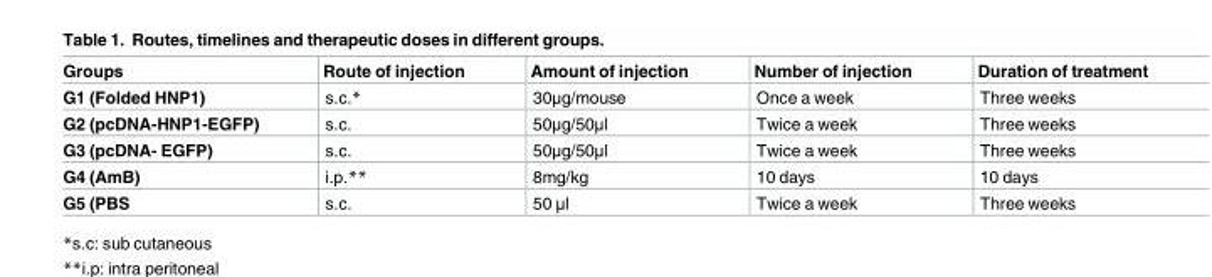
<table><thead><tr><td>Groups</td><td>Route of injection</td><td>Amount of injection</td><td>Number of injection</td><td>Duration of treatment</td></tr></thead><tbody><tr><td>G1 (Folded HNP1)</td><td>s.c.*</td><td>30μg/mouse</td><td>Once a week</td><td>Three weeks</td></tr><tr><td>G2 (pcDNA-HNP1-EGFP)</td><td>s.c.</td><td>50μg/50μl</td><td>Twice a week</td><td>Three weeks</td></tr><tr><td>G3 (pcDNA- EGFP)</td><td>s.c.</td><td>50μg/50μl</td><td>Twice a week</td><td>Three weeks</td></tr><tr><td>G4 (AmB)</td><td>i.p.**</td><td>8mg/kg</td><td>10 days</td><td>10 days</td></tr><tr><td>G5 (PBS</td><td>s.c.</td><td>50 μl</td><td>Twice a week</td><td>Three weeks</td></tr></tbody></table>